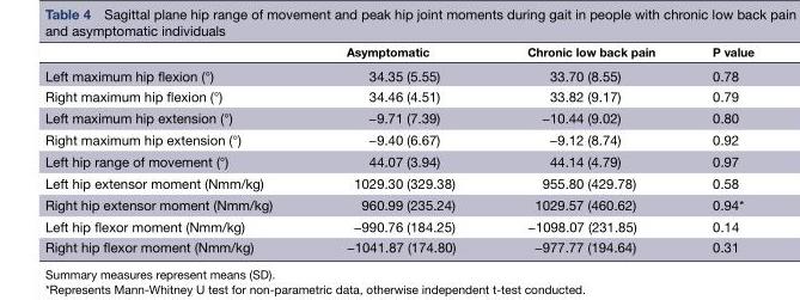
<table><thead><tr><td></td><td>Asymptomatic</td><td>Chronic low back pain</td><td>P value</td></tr></thead><tbody><tr><td>Left maximum hip flexion (°)</td><td>34.35 (5.55)</td><td>33.70 (8.55)</td><td>0.78</td></tr><tr><td>Right maximum hip flexion (°)</td><td>34.46 (4.51)</td><td>33.82 (9.17)</td><td>0.79</td></tr><tr><td>Left maximum hip extension (°)</td><td>−9.71 (7.39)</td><td>−10.44 (9.02)</td><td>0.80</td></tr><tr><td>Right maximum hip extension (°)</td><td>−9.40 (6.67)</td><td>−9.12 (8.74)</td><td>0.92</td></tr><tr><td>Left hip range of movement (°)</td><td>44.07 (3.94)</td><td>44.14 (4.79)</td><td>0.97</td></tr><tr><td>Left hip extensor moment (Nmm/kg)</td><td>1029.30 (329.38)</td><td>955.80 (429.78)</td><td>0.58</td></tr><tr><td>Right hip extensor moment (Nmm/kg)</td><td>960.99 (235.24)</td><td>1029.57 (460.62)</td><td>0.94*</td></tr><tr><td>Left hip flexor moment (Nmm/kg)</td><td>−990.76 (184.25)</td><td>−1098.07 (231.85)</td><td>0.14</td></tr><tr><td>Right hip flexor moment (Nmm/kg)</td><td>−1041.87 (174.80)</td><td>−977.77 (194.64)</td><td>0.31</td></tr></tbody></table>